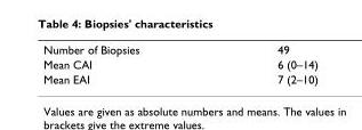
<table><tbody><tr><td>Number of Biopsies</td><td>49</td></tr><tr><td>Mean CAI</td><td>6 (0–14)</td></tr><tr><td>Mean EAI</td><td>7 (2–10)</td></tr></tbody></table>